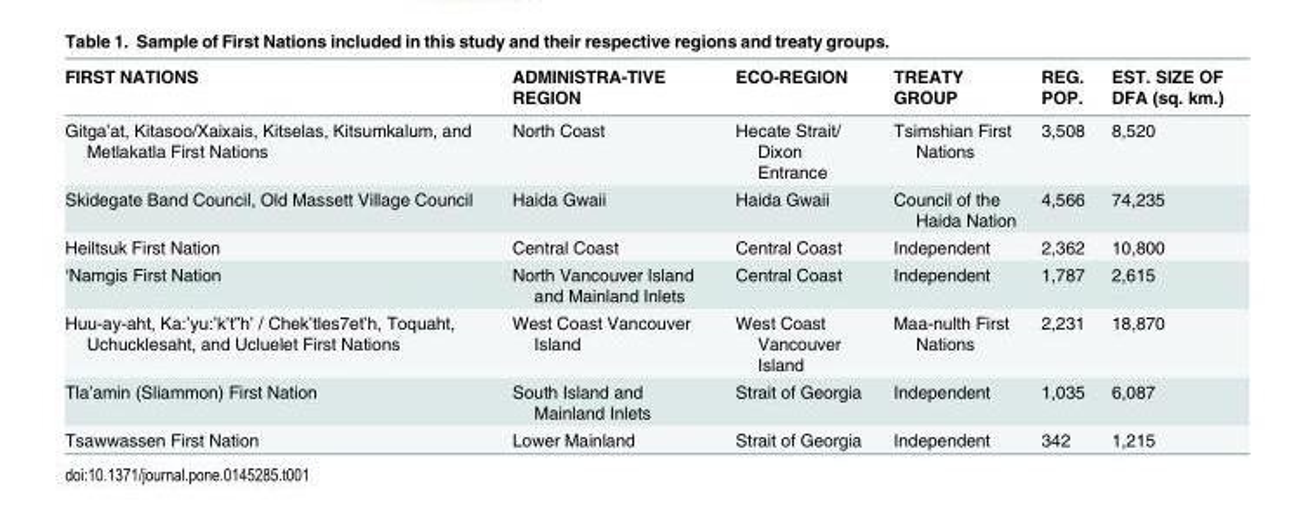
<table><thead><tr><td>FIRST NATIONS</td><td>ADMINISTRA-TIVE REGION</td><td>ECO-REGION</td><td>TREATY GROUP</td><td>REG. POP.</td><td>EST. SIZE OF DFA (sq. km.)</td></tr></thead><tbody><tr><td>Gitga’at, Kitasoo/Xaixais, Kitselas, Kitsumkalum, and Metlakatla First Nations</td><td>North Coast</td><td>Hecate Strait/ Dixon Entrance</td><td>Tsimshian First Nations</td><td>3,508</td><td>8,520</td></tr><tr><td>Skidegate Band Council, Old Massett Village Council</td><td>Haida Gwaii</td><td>Haida Gwaii</td><td>Council of the Haida Nation</td><td>4,566</td><td>74,235</td></tr><tr><td>Heiltsuk First Nation</td><td>Central Coast</td><td>Central Coast</td><td>Independent</td><td>2,362</td><td>10,800</td></tr><tr><td>‘Namgis First Nation</td><td>North Vancouver Island and Mainland Inlets</td><td>Central Coast</td><td>Independent</td><td>1,787</td><td>2,615</td></tr><tr><td>Huu-ay-aht, Ka:’yu:’k’t”h’ / Chek’tles7et’h, Toquaht, Uchucklesaht, and Ucluelet First Nations</td><td>West Coast Vancouver Island</td><td>West Coast Vancouver Island</td><td>Maa-nulth First Nations</td><td>2,231</td><td>18,870</td></tr><tr><td>Tla’amin (Sliammon) First Nation</td><td>South Island and Mainland Inlets</td><td>Strait of Georgia</td><td>Independent</td><td>1,035</td><td>6,087</td></tr><tr><td>Tsawwassen First Nation</td><td>Lower Mainland</td><td>Strait of Georgia</td><td>Independent</td><td>342</td><td>1,215</td></tr></tbody></table>